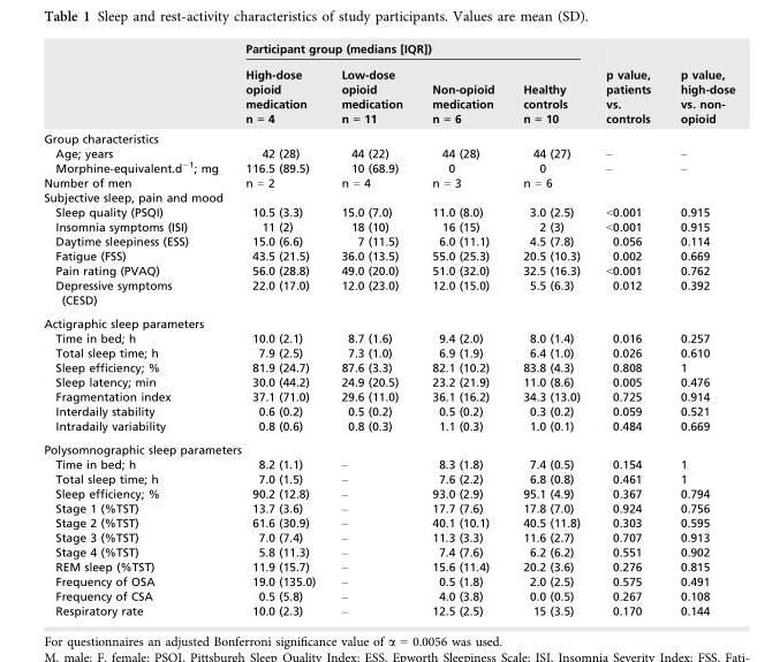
<table><thead><tr><td rowspan="2"></td><td colspan="4">Participant group (medians [IQR])</td><td rowspan="2">p value, patients vs. controls</td><td rowspan="2">p value, high-dose vs. non- opioid</td></tr><tr><td>High-dose opioid medication n = 4</td><td>Low-dose opioid medication n = 11</td><td>Non-opioid medication n = 6</td><td>Healthy controls n = 10</td></tr></thead><tbody><tr><td colspan="7">Group characteristics</td></tr><tr><td>Age; years</td><td>42 (28)</td><td>44 (22)</td><td>44 (28)</td><td>44 (27)</td><td>–</td><td>–</td></tr><tr><td>Morphine-equivalent.d<sup>−1</sup>; mg</td><td>116.5 (89.5)</td><td>10 (68.9)</td><td>0</td><td>0</td><td>–</td><td>–</td></tr><tr><td>Number of men</td><td>n = 2</td><td>n = 4</td><td>n = 3</td><td>n = 6</td><td colspan="2"></td></tr><tr><td colspan="7">Subjective sleep, pain and mood</td></tr><tr><td>Sleep quality (PSQI)</td><td>10.5 (3.3)</td><td>15.0 (7.0)</td><td>11.0 (8.0)</td><td>3.0 (2.5)</td><td>&lt;0.001</td><td>0.915</td></tr><tr><td>Insomnia symptoms (ISI)</td><td>11 (2)</td><td>18 (10)</td><td>16 (15)</td><td>2 (3)</td><td>&lt;0.001</td><td>0.915</td></tr><tr><td>Daytime sleepiness (ESS)</td><td>15.0 (6.6)</td><td>7 (11.5)</td><td>6.0 (11.1)</td><td>4.5 (7.8)</td><td>0.056</td><td>0.114</td></tr><tr><td>Fatigue (FSS)</td><td>43.5 (21.5)</td><td>36.0 (13.5)</td><td>55.0 (25.3)</td><td>20.5 (10.3)</td><td>0.002</td><td>0.669</td></tr><tr><td>Pain rating (PVAQ)</td><td>56.0 (28.8)</td><td>49.0 (20.0)</td><td>51.0 (32.0)</td><td>32.5 (16.3)</td><td>&lt;0.001</td><td>0.762</td></tr><tr><td>Depressive symptoms (CESD)</td><td>22.0 (17.0)</td><td>12.0 (23.0)</td><td>12.0 (15.0)</td><td>5.5 (6.3)</td><td>0.012</td><td>0.392</td></tr><tr><td colspan="7">Actigraphic sleep parameters</td></tr><tr><td>Time in bed; h</td><td>10.0 (2.1)</td><td>8.7 (1.6)</td><td>9.4 (2.0)</td><td>8.0 (1.4)</td><td>0.016</td><td>0.257</td></tr><tr><td>Total sleep time; h</td><td>7.9 (2.5)</td><td>7.3 (1.0)</td><td>6.9 (1.9)</td><td>6.4 (1.0)</td><td>0.026</td><td>0.610</td></tr><tr><td>Sleep efficiency; %</td><td>81.9 (24.7)</td><td>87.6 (3.3)</td><td>82.1 (10.2)</td><td>83.8 (4.3)</td><td>0.808</td><td>1</td></tr><tr><td>Sleep latency; min</td><td>30.0 (44.2)</td><td>24.9 (20.5)</td><td>23.2 (21.9)</td><td>11.0 (8.6)</td><td>0.005</td><td>0.476</td></tr><tr><td>Fragmentation index</td><td>37.1 (71.0)</td><td>29.6 (11.0)</td><td>36.1 (16.2)</td><td>34.3 (13.0)</td><td>0.725</td><td>0.914</td></tr><tr><td>Interdaily stability</td><td>0.6 (0.2)</td><td>0.5 (0.2)</td><td>0.5 (0.2)</td><td>0.3 (0.2)</td><td>0.059</td><td>0.521</td></tr><tr><td>Intradaily variability</td><td>0.8 (0.6)</td><td>0.8 (0.3)</td><td>1.1 (0.3)</td><td>1.0 (0.1)</td><td>0.484</td><td>0.669</td></tr><tr><td colspan="7">Polysomnographic sleep parameters</td></tr><tr><td>Time in bed; h</td><td>8.2 (1.1)</td><td>–</td><td>8.3 (1.8)</td><td>7.4 (0.5)</td><td>0.154</td><td>1</td></tr><tr><td>Total sleep time; h</td><td>7.0 (1.5)</td><td>–</td><td>7.6 (2.2)</td><td>6.8 (0.8)</td><td>0.461</td><td>1</td></tr><tr><td>Sleep efficiency; %</td><td>90.2 (12.8)</td><td>–</td><td>93.0 (2.9)</td><td>95.1 (4.9)</td><td>0.367</td><td>0.794</td></tr><tr><td>Stage 1 (%TST)</td><td>13.7 (3.6)</td><td>–</td><td>17.7 (7.6)</td><td>17.8 (7.0)</td><td>0.924</td><td>0.756</td></tr><tr><td>Stage 2 (%TST)</td><td>61.6 (30.9)</td><td>–</td><td>40.1 (10.1)</td><td>40.5 (11.8)</td><td>0.303</td><td>0.595</td></tr><tr><td>Stage 3 (%TST)</td><td>7.0 (7.4)</td><td>–</td><td>11.3 (3.3)</td><td>11.6 (2.7)</td><td>0.707</td><td>0.913</td></tr><tr><td>Stage 4 (%TST)</td><td>5.8 (11.3)</td><td>–</td><td>7.4 (7.6)</td><td>6.2 (6.2)</td><td>0.551</td><td>0.902</td></tr><tr><td>REM sleep (%TST)</td><td>11.9 (15.7)</td><td>–</td><td>15.6 (11.4)</td><td>20.2 (3.6)</td><td>0.276</td><td>0.815</td></tr><tr><td>Frequency of OSA</td><td>19.0 (135.0)</td><td>–</td><td>0.5 (1.8)</td><td>2.0 (2.5)</td><td>0.575</td><td>0.491</td></tr><tr><td>Frequency of CSA</td><td>0.5 (5.8)</td><td>–</td><td>4.0 (3.8)</td><td>0.0 (0.5)</td><td>0.267</td><td>0.108</td></tr><tr><td>Respiratory rate</td><td>10.0 (2.3)</td><td>–</td><td>12.5 (2.5)</td><td>15 (3.5)</td><td>0.170</td><td>0.144</td></tr></tbody></table>